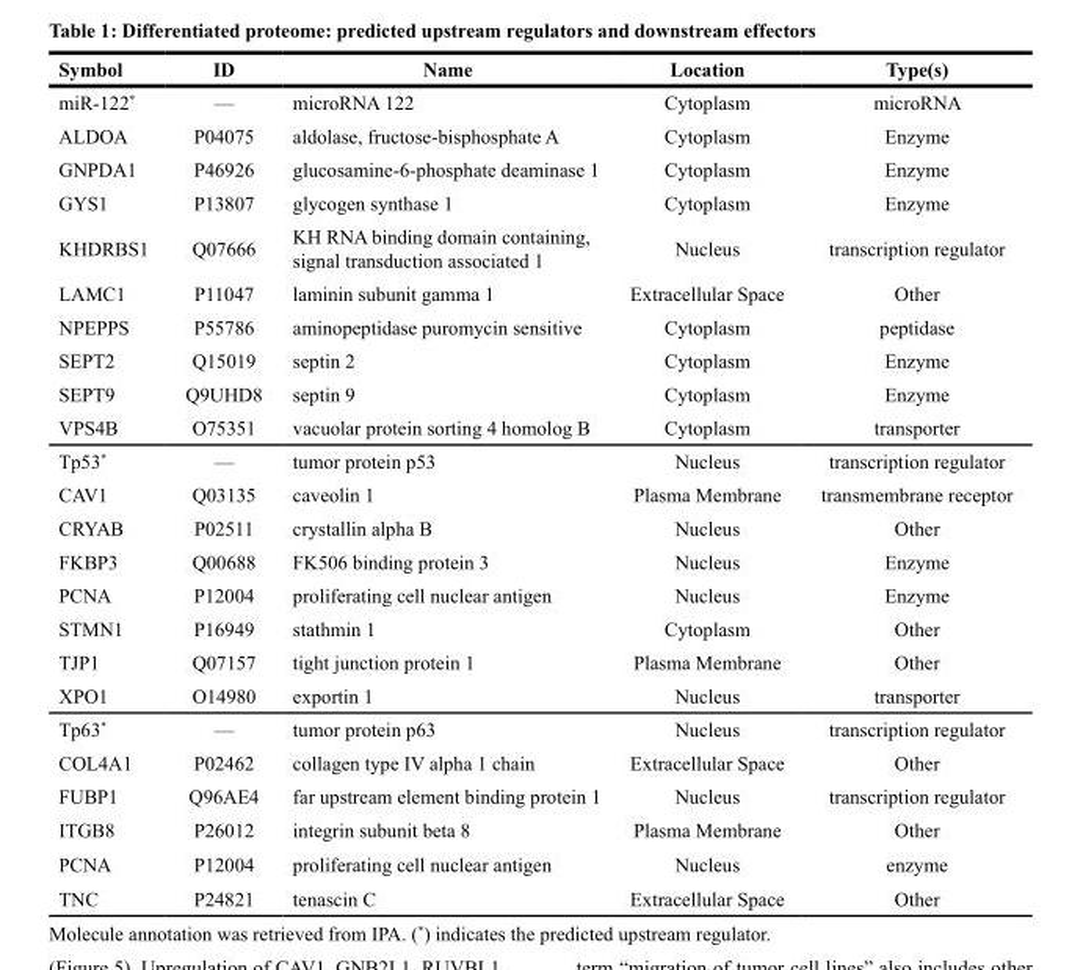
<table><thead><tr><td>Symbol</td><td>ID</td><td>Name</td><td>Location</td><td>Type(s)</td></tr></thead><tbody><tr><td>miR-122*</td><td>—</td><td>microRNA 122</td><td>Cytoplasm</td><td>microRNA</td></tr><tr><td>ALDOA</td><td>P04075</td><td>aldolase, fructose-bisphosphate A</td><td>Cytoplasm</td><td>Enzyme</td></tr><tr><td>GNPDA1</td><td>P46926</td><td>glucosamine-6-phosphate deaminase 1</td><td>Cytoplasm</td><td>Enzyme</td></tr><tr><td>GYS1</td><td>P13807</td><td>glycogen synthase 1</td><td>Cytoplasm</td><td>Enzyme</td></tr><tr><td>KHDRBS1</td><td>Q07666</td><td>KH RNA binding domain containing, signal transduction associated 1</td><td>Nucleus</td><td>transcription regulator</td></tr><tr><td>LAMC1</td><td>P11047</td><td>laminin subunit gamma 1</td><td>Extracellular Space</td><td>Other</td></tr><tr><td>NPEPPS</td><td>P55786</td><td>aminopeptidase puromycin sensitive</td><td>Cytoplasm</td><td>peptidase</td></tr><tr><td>SEPT2</td><td>Q15019</td><td>septin 2</td><td>Cytoplasm</td><td>Enzyme</td></tr><tr><td>SEPT9</td><td>Q9UHD8</td><td>septin 9</td><td>Cytoplasm</td><td>Enzyme</td></tr><tr><td>VPS4B</td><td>O75351</td><td>vacuolar protein sorting 4 homolog B</td><td>Cytoplasm</td><td>transporter</td></tr><tr><td>Tp53*</td><td>—</td><td>tumor protein p53</td><td>Nucleus</td><td>transcription regulator</td></tr><tr><td>CAV1</td><td>Q03135</td><td>caveolin 1</td><td>Plasma Membrane</td><td>transmembrane receptor</td></tr><tr><td>CRYAB</td><td>P02511</td><td>crystallin alpha B</td><td>Nucleus</td><td>Other</td></tr><tr><td>FKBP3</td><td>Q00688</td><td>FK506 binding protein 3</td><td>Nucleus</td><td>Enzyme</td></tr><tr><td>PCNA</td><td>P12004</td><td>proliferating cell nuclear antigen</td><td>Nucleus</td><td>Enzyme</td></tr><tr><td>STMN1</td><td>P16949</td><td>stathmin 1</td><td>Cytoplasm</td><td>Other</td></tr><tr><td>TJP1</td><td>Q07157</td><td>tight junction protein 1</td><td>Plasma Membrane</td><td>Other</td></tr><tr><td>XPO1</td><td>O14980</td><td>exportin 1</td><td>Nucleus</td><td>transporter</td></tr><tr><td>Tp63*</td><td>—</td><td>tumor protein p63</td><td>Nucleus</td><td>transcription regulator</td></tr><tr><td>COL4A1</td><td>P02462</td><td>collagen type IV alpha 1 chain</td><td>Extracellular Space</td><td>Other</td></tr><tr><td>FUBP1</td><td>Q96AE4</td><td>far upstream element binding protein 1</td><td>Nucleus</td><td>transcription regulator</td></tr><tr><td>ITGB8</td><td>P26012</td><td>integrin subunit beta 8</td><td>Plasma Membrane</td><td>Other</td></tr><tr><td>PCNA</td><td>P12004</td><td>proliferating cell nuclear antigen</td><td>Nucleus</td><td>enzyme</td></tr><tr><td>TNC</td><td>P24821</td><td>tenascin C</td><td>Extracellular Space</td><td>Other</td></tr></tbody></table>